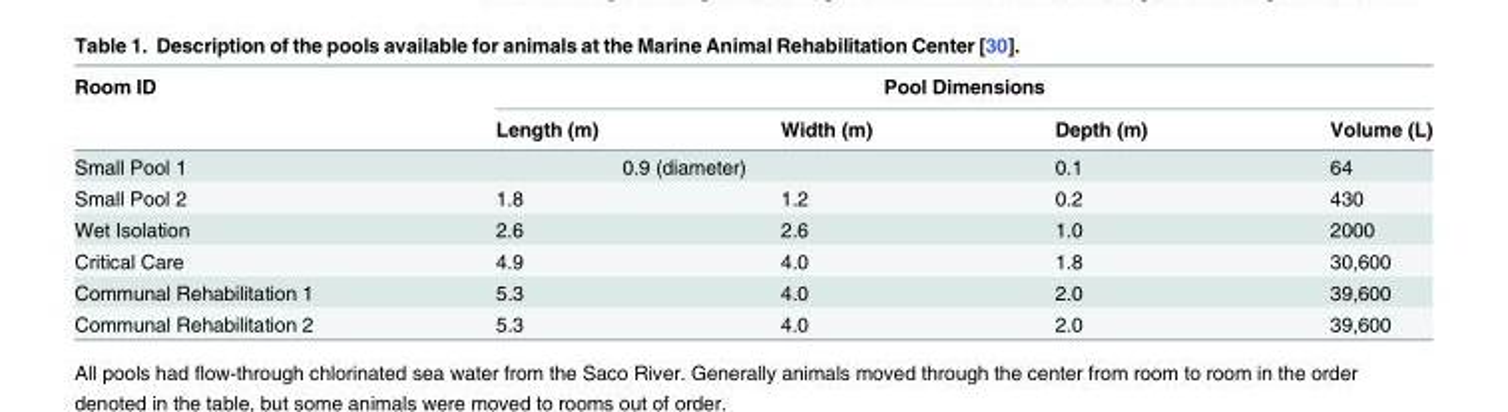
<table><thead><tr><td rowspan="2">Room ID</td><td colspan="4">Pool Dimensions</td></tr><tr><td>Length (m)</td><td>Width (m)</td><td>Depth (m)</td><td>Volume (L)</td></tr></thead><tbody><tr><td>Small Pool 1</td><td colspan="2">0.9 (diameter)</td><td>0.1</td><td>64</td></tr><tr><td>Small Pool 2</td><td>1.8</td><td>1.2</td><td>0.2</td><td>430</td></tr><tr><td>Wet Isolation</td><td>2.6</td><td>2.6</td><td>1.0</td><td>2000</td></tr><tr><td>Critical Care</td><td>4.9</td><td>4.0</td><td>1.8</td><td>30,600</td></tr><tr><td>Communal Rehabilitation 1</td><td>5.3</td><td>4.0</td><td>2.0</td><td>39,600</td></tr><tr><td>Communal Rehabilitation 2</td><td>5.3</td><td>4.0</td><td>2.0</td><td>39,600</td></tr></tbody></table>